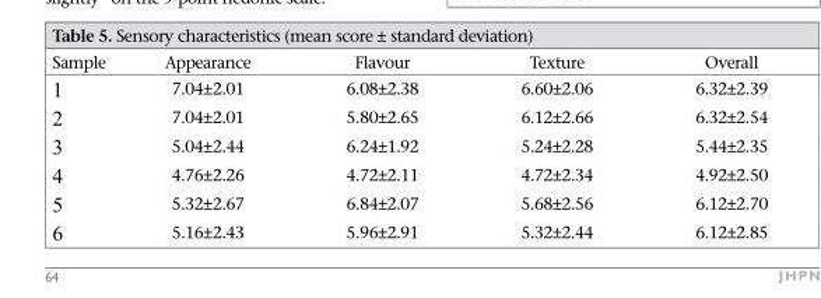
<table><thead><tr><td>Sample</td><td>Appearance</td><td>Flavour</td><td>Texture</td><td>Overall</td></tr></thead><tbody><tr><td>1</td><td>7.04±2.01</td><td>6.08±2.38</td><td>6.60±2.06</td><td>6.32±2.39</td></tr><tr><td>2</td><td>7.04±2.01</td><td>5.80±2.65</td><td>6.12±2.66</td><td>6.32±2.54</td></tr><tr><td>3</td><td>5.04±2.44</td><td>6.24±1.92</td><td>5.24±2.28</td><td>5.44±2.35</td></tr><tr><td>4</td><td>4.76±2.26</td><td>4.72±2.11</td><td>4.72±2.34</td><td>4.92±2.50</td></tr><tr><td>5</td><td>5.32±2.67</td><td>6.84±2.07</td><td>5.68±2.56</td><td>6.12±2.70</td></tr><tr><td>6</td><td>5.16±2.43</td><td>5.96±2.91</td><td>5.32±2.44</td><td>6.12±2.85</td></tr></tbody></table>